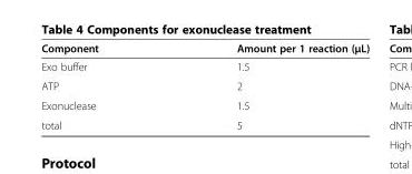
<table><thead><tr><td>Component</td><td>Amount per 1 reaction (μL)</td></tr></thead><tbody><tr><td>Exo buffer</td><td>1.5</td></tr><tr><td>ATP</td><td>2</td></tr><tr><td>Exonuclease</td><td>1.5</td></tr><tr><td>total</td><td>5</td></tr></tbody></table>